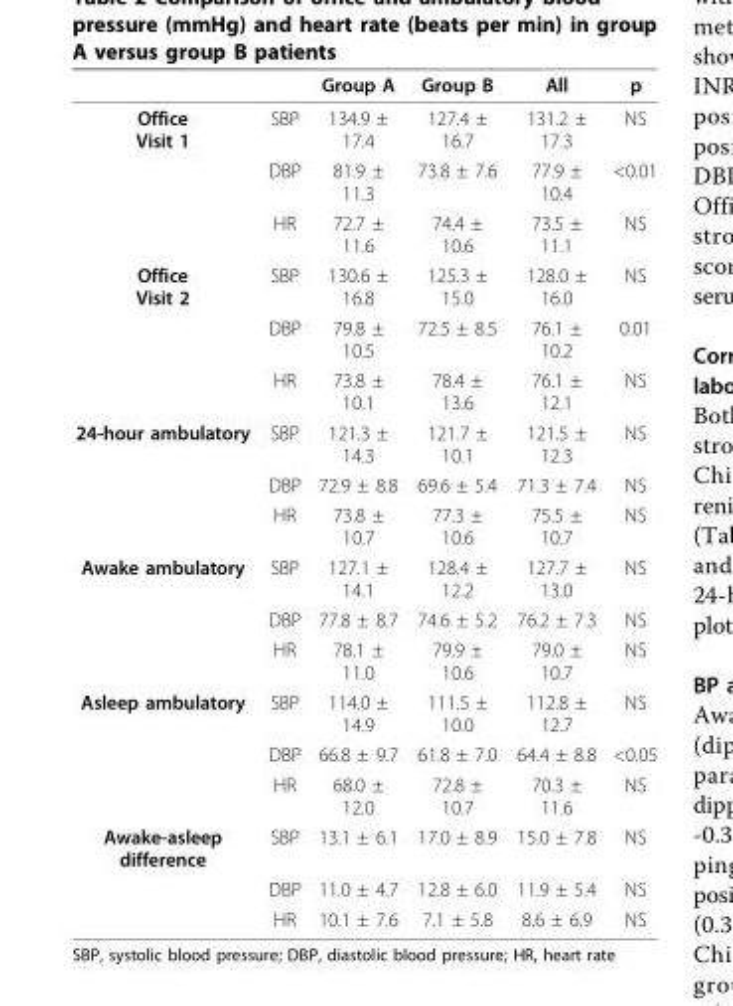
<table><thead><tr><td></td><td></td><td>Group A</td><td>Group B</td><td>All</td><td>p</td></tr></thead><tbody><tr><td rowspan="3">Office Visit 1</td><td>SBP</td><td>134.9 ± 17.4</td><td>127.4 ± 16.7</td><td>131.2 ± 17.3</td><td>NS</td></tr><tr><td>DBP</td><td>81.9 ± 11.3</td><td>73.8 ± 7.6</td><td>77.9 ± 10.4</td><td>&lt;0.01</td></tr><tr><td>HR</td><td>72.7 ± 11.6</td><td>74.4 ± 10.6</td><td>73.5 ± 11.1</td><td>NS</td></tr><tr><td rowspan="3">Office Visit 2</td><td>SBP</td><td>130.6 ± 16.8</td><td>125.3 ± 15.0</td><td>128.0 ± 16.0</td><td>NS</td></tr><tr><td>DBP</td><td>79.8 ± 10.5</td><td>72.5 ± 8.5</td><td>76.1 ± 10.2</td><td>0.01</td></tr><tr><td>HR</td><td>73.8 ± 10.1</td><td>78.4 ± 13.6</td><td>76.1 ± 12.1</td><td>NS</td></tr><tr><td rowspan="3">24-hour ambulatory</td><td>SBP</td><td>121.3 ± 14.3</td><td>121.7 ± 10.1</td><td>121.5 ± 12.3</td><td>NS</td></tr><tr><td>DBP</td><td>72.9 ± 8.8</td><td>69.6 ± 5.4</td><td>71.3 ± 7.4</td><td>NS</td></tr><tr><td>HR</td><td>73.8 ± 10.7</td><td>77.3 ± 10.6</td><td>75.5 ± 10.7</td><td>NS</td></tr><tr><td rowspan="3">Awake ambulatory</td><td>SBP</td><td>127.1 ± 14.1</td><td>128.4 ± 12.2</td><td>127.7 ± 13.0</td><td>NS</td></tr><tr><td>DBP</td><td>77.8 ± 8.7</td><td>74.6 ± 5.2</td><td>76.2 ± 7.3</td><td>NS</td></tr><tr><td>HR</td><td>78.1 ± 11.0</td><td>79.9 ± 10.6</td><td>79.0 ± 10.7</td><td>NS</td></tr><tr><td rowspan="3">Asleep ambulatory</td><td>SBP</td><td>114.0 ± 14.9</td><td>111.5 ± 10.0</td><td>112.8 ± 12.7</td><td>NS</td></tr><tr><td>DBP</td><td>66.8 ± 9.7</td><td>61.8 ± 7.0</td><td>64.4 ± 8.8</td><td>&lt;0.05</td></tr><tr><td>HR</td><td>68.0 ± 12.0</td><td>72.8 ± 10.7</td><td>70.3 ± 11.6</td><td>NS</td></tr><tr><td rowspan="3">Awake-asleep difference</td><td>SBP</td><td>13.1 ± 6.1</td><td>17.0 ± 8.9</td><td>15.0 ± 7.8</td><td>NS</td></tr><tr><td>DBP</td><td>11.0 ± 4.7</td><td>12.8 ± 6.0</td><td>11.9 ± 5.4</td><td>NS</td></tr><tr><td>HR</td><td>10.1 ± 7.6</td><td>7.1 ± 5.8</td><td>8.6 ± 6.9</td><td>NS</td></tr></tbody></table>